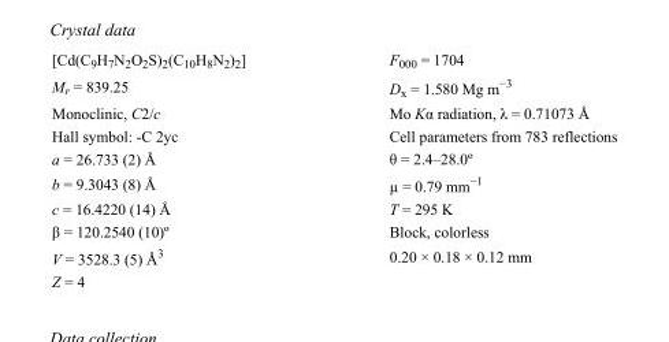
<table><tbody><tr><td>[Cd(C<sub>9</sub>H<sub>7</sub>N<sub>2</sub>O<sub>2</sub>S)<sub>2</sub>(C<sub>10</sub>H<sub>8</sub>N<sub>2</sub>)<sub>2</sub>]</td><td>F000 = 1704</td></tr><tr><td>M<sub>r</sub> = 839.25</td><td>D<sub>x</sub> = 1.580 Mg m<sup>−3</sup></td></tr><tr><td>Monoclinic, C2/c</td><td>Mo Kα radiation, λ = 0.71073 Å</td></tr><tr><td>Hall symbol: -C 2yc</td><td>Cell parameters from 783 reflections</td></tr><tr><td>a = 26.733 (2) Å</td><td>θ = 2.4–28.0º</td></tr><tr><td>b = 9.3043 (8) Å</td><td>µ = 0.79 mm<sup>−1</sup></td></tr><tr><td>c = 16.4220 (14) Å</td><td>T = 295 K</td></tr><tr><td>β = 120.2540 (10)º</td><td>Block, colorless</td></tr><tr><td>V = 3528.3 (5) Å<sup>3</sup></td><td>0.20 × 0.18 × 0.12 mm</td></tr><tr><td>Z = 4</td><td></td></tr></tbody></table>